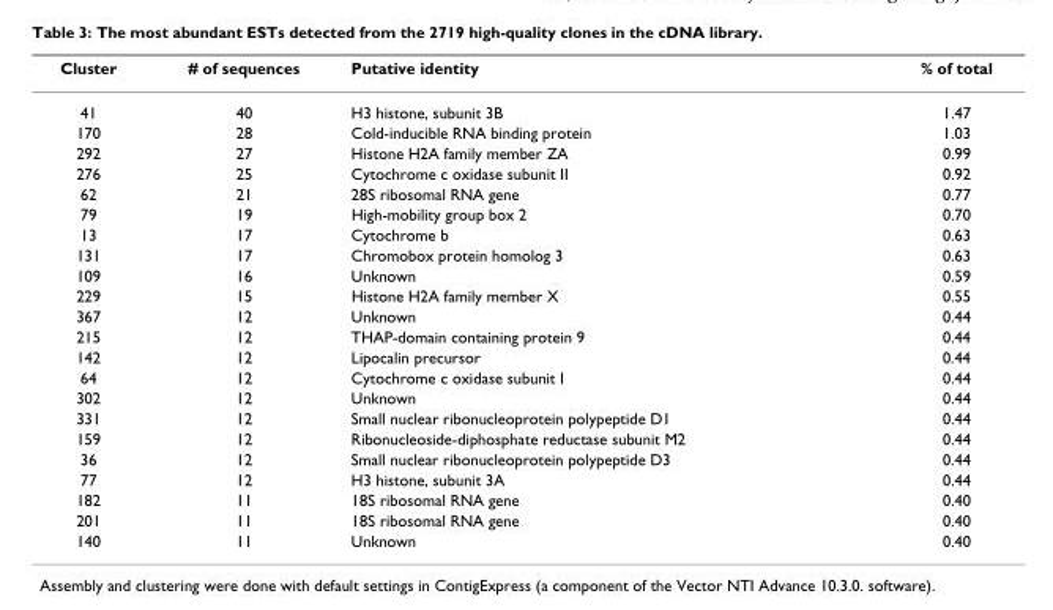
<table><thead><tr><td>Cluster</td><td># of sequences</td><td>Putative identity</td><td>% of total</td></tr></thead><tbody><tr><td>41</td><td>40</td><td>H3 histone, subunit 3B</td><td>1.47</td></tr><tr><td>170</td><td>28</td><td>Cold-inducible RNA binding protein</td><td>1.03</td></tr><tr><td>292</td><td>27</td><td>Histone H2A family member ZA</td><td>0.99</td></tr><tr><td>276</td><td>25</td><td>Cytochrome c oxidase subunit II</td><td>0.92</td></tr><tr><td>62</td><td>21</td><td>28S ribosomal RNA gene</td><td>0.77</td></tr><tr><td>79</td><td>19</td><td>High-mobility group box 2</td><td>0.70</td></tr><tr><td>13</td><td>17</td><td>Cytochrome b</td><td>0.63</td></tr><tr><td>131</td><td>17</td><td>Chromobox protein homolog 3</td><td>0.63</td></tr><tr><td>109</td><td>16</td><td>Unknown</td><td>0.59</td></tr><tr><td>229</td><td>15</td><td>Histone H2A family member X</td><td>0.55</td></tr><tr><td>367</td><td>12</td><td>Unknown</td><td>0.44</td></tr><tr><td>215</td><td>12</td><td>THAP-domain containing protein 9</td><td>0.44</td></tr><tr><td>142</td><td>12</td><td>Lipocalin precursor</td><td>0.44</td></tr><tr><td>64</td><td>12</td><td>Cytochrome c oxidase subunit I</td><td>0.44</td></tr><tr><td>302</td><td>12</td><td>Unknown</td><td>0.44</td></tr><tr><td>331</td><td>12</td><td>Small nuclear ribonucleoprotein polypeptide D1</td><td>0.44</td></tr><tr><td>159</td><td>12</td><td>Ribonucleoside-diphosphate reductase subunit M2</td><td>0.44</td></tr><tr><td>36</td><td>12</td><td>Small nuclear ribonucleoprotein polypeptide D3</td><td>0.44</td></tr><tr><td>77</td><td>12</td><td>H3 histone, subunit 3A</td><td>0.44</td></tr><tr><td>182</td><td>11</td><td>18S ribosomal RNA gene</td><td>0.40</td></tr><tr><td>201</td><td>11</td><td>18S ribosomal RNA gene</td><td>0.40</td></tr><tr><td>140</td><td>11</td><td>Unknown</td><td>0.40</td></tr></tbody></table>